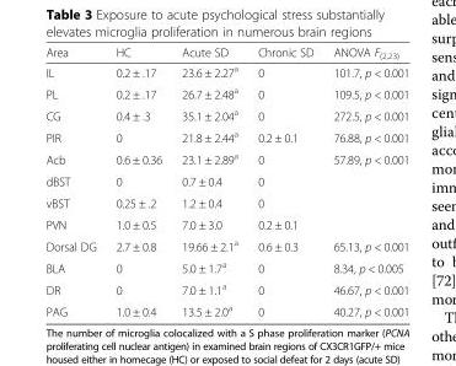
<table><thead><tr><td>Area</td><td>HC</td><td>Acute SD</td><td>Chronic SD</td><td>ANOVA F<sub>(2,23)</sub></td></tr></thead><tbody><tr><td>IL</td><td>0.2 ± .17</td><td>23.6 ± 2.27<sup>a</sup></td><td>0</td><td>101.7, p &lt; 0.001</td></tr><tr><td>PL</td><td>0.2 ± .17</td><td>26.7 ± 2.48<sup>a</sup></td><td>0</td><td>109.5, p &lt; 0.001</td></tr><tr><td>CG</td><td>0.4 ± .3</td><td>35.1 ± 2.04<sup>a</sup></td><td>0</td><td>272.5, p &lt; 0.001</td></tr><tr><td>PIR</td><td>0</td><td>21.8 ± 2.44<sup>a</sup></td><td>0.2 ± 0.1</td><td>76.88, p &lt; 0.001</td></tr><tr><td>Acb</td><td>0.6 ± 0.36</td><td>23.1 ± 2.89<sup>a</sup></td><td>0</td><td>57.89, p &lt; 0.001</td></tr><tr><td>dBST</td><td>0</td><td>0.7 ± 0.4</td><td>0</td><td></td></tr><tr><td>vBST</td><td>0.25 ± .2</td><td>1.2 ± 0.4</td><td>0</td><td></td></tr><tr><td>PVN</td><td>1.0 ± 0.5</td><td>7.0 ± 3.0</td><td>0.2 ± 0.1</td><td></td></tr><tr><td>Dorsal DG</td><td>2.7 ± 0.8</td><td>19.66 ± 2.1<sup>a</sup></td><td>0.6 ± 0.3</td><td>65.13, p &lt; 0.001</td></tr><tr><td>BLA</td><td>0</td><td>5.0 ± 1.7<sup>a</sup></td><td>0</td><td>8.34, p &lt; 0.005</td></tr><tr><td>DR</td><td>0</td><td>7.0 ± 1.1<sup>a</sup></td><td>0</td><td>46.67, p &lt; 0.001</td></tr><tr><td>PAG</td><td>1.0 ± 0.4</td><td>13.5 ± 2.0<sup>a</sup></td><td>0</td><td>40.27, p &lt; 0.001</td></tr></tbody></table>